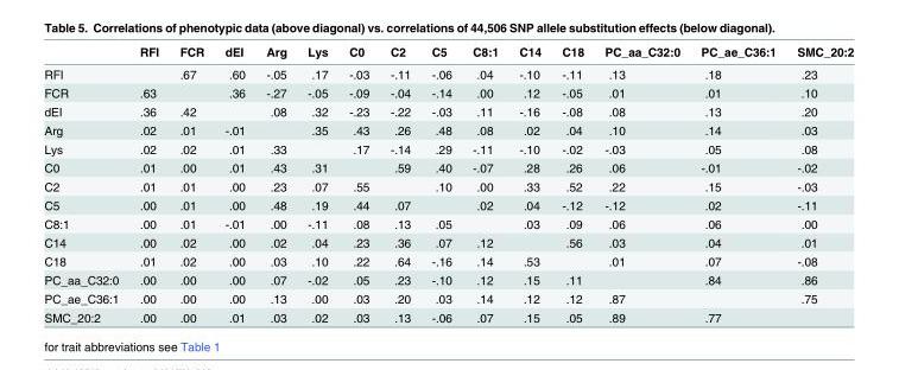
<table><thead><tr><td></td><td>RFI</td><td>FCR</td><td>dEI</td><td>Arg</td><td>Lys</td><td>C0</td><td>C2</td><td>C5</td><td>C8:1</td><td>C14</td><td>C18</td><td>PC_aa_C32:0</td><td>PC_ae_C36:1</td><td>SMC_20:2</td></tr></thead><tbody><tr><td>RFI</td><td></td><td>.67</td><td>.60</td><td>-.05</td><td>.17</td><td>-.03</td><td>-.11</td><td>-.06</td><td>.04</td><td>-.10</td><td>-.11</td><td>.13</td><td>.18</td><td>.23</td></tr><tr><td>FCR</td><td>.63</td><td></td><td>.36</td><td>-.27</td><td>-.05</td><td>-.09</td><td>-.04</td><td>-.14</td><td>.00</td><td>.12</td><td>-.05</td><td>.01</td><td>.01</td><td>.10</td></tr><tr><td>dEI</td><td>.36</td><td>.42</td><td></td><td>.08</td><td>.32</td><td>-.23</td><td>-.22</td><td>-.03</td><td>.11</td><td>-.16</td><td>-.08</td><td>.08</td><td>.13</td><td>.20</td></tr><tr><td>Arg</td><td>.02</td><td>.01</td><td>-.01</td><td></td><td>.35</td><td>.43</td><td>.26</td><td>.48</td><td>.08</td><td>.02</td><td>.04</td><td>.10</td><td>.14</td><td>.03</td></tr><tr><td>Lys</td><td>.02</td><td>.02</td><td>.01</td><td>.33</td><td></td><td>.17</td><td>-.14</td><td>.29</td><td>-.11</td><td>-.10</td><td>-.02</td><td>-.03</td><td>.05</td><td>.08</td></tr><tr><td>C0</td><td>.01</td><td>.00</td><td>.01</td><td>.43</td><td>.31</td><td></td><td>.59</td><td>.40</td><td>-.07</td><td>.28</td><td>.26</td><td>.06</td><td>-.01</td><td>-.02</td></tr><tr><td>C2</td><td>.01</td><td>.01</td><td>.00</td><td>.23</td><td>.07</td><td>.55</td><td></td><td>.10</td><td>.00</td><td>.33</td><td>.52</td><td>.22</td><td>.15</td><td>-.03</td></tr><tr><td>C5</td><td>.00</td><td>.01</td><td>.00</td><td>.48</td><td>.19</td><td>.44</td><td>.07</td><td></td><td>.02</td><td>.04</td><td>-.12</td><td>-.12</td><td>.02</td><td>-.11</td></tr><tr><td>C8:1</td><td>.00</td><td>.01</td><td>-.01</td><td>.00</td><td>-.11</td><td>.08</td><td>.13</td><td>.05</td><td></td><td>.03</td><td>.09</td><td>.06</td><td>.06</td><td>.00</td></tr><tr><td>C14</td><td>.00</td><td>.02</td><td>.00</td><td>.02</td><td>.04</td><td>.23</td><td>.36</td><td>.07</td><td>.12</td><td></td><td>.56</td><td>.03</td><td>.04</td><td>.01</td></tr><tr><td>C18</td><td>.01</td><td>.02</td><td>.00</td><td>.03</td><td>.10</td><td>.22</td><td>.64</td><td>-.16</td><td>.14</td><td>.53</td><td></td><td>.01</td><td>.07</td><td>-.08</td></tr><tr><td>PC_aa_C32:0</td><td>.00</td><td>.00</td><td>.00</td><td>.07</td><td>-.02</td><td>.05</td><td>.23</td><td>-.10</td><td>.12</td><td>.15</td><td>.11</td><td></td><td>.84</td><td>.86</td></tr><tr><td>PC_ae_C36:1</td><td>.00</td><td>.00</td><td>.00</td><td>.13</td><td>.00</td><td>.03</td><td>.20</td><td>.03</td><td>.14</td><td>.12</td><td>.12</td><td>.87</td><td></td><td>.75</td></tr><tr><td>SMC_20:2</td><td>.00</td><td>.00</td><td>.01</td><td>.03</td><td>.02</td><td>.03</td><td>.13</td><td>-.06</td><td>.07</td><td>.15</td><td>.05</td><td>.89</td><td>.77</td><td></td></tr></tbody></table>